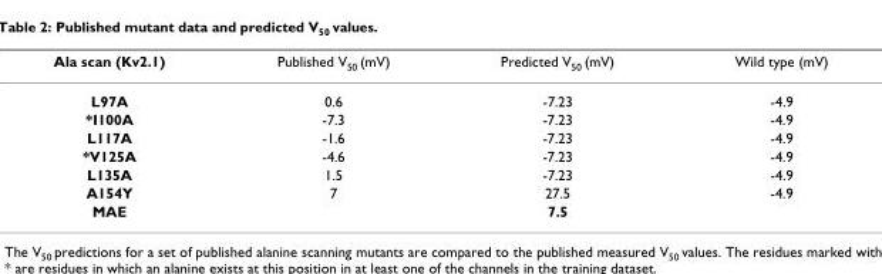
<table><thead><tr><td>Ala scan (Kv2.1)</td><td>Published V50 (mV)</td><td>Predicted V50 (mV)</td><td>Wild type (mV)</td></tr></thead><tbody><tr><td>L97A</td><td>0.6</td><td>-7.23</td><td>-4.9</td></tr><tr><td>*I100A</td><td>-7.3</td><td>-7.23</td><td>-4.9</td></tr><tr><td>L117A</td><td>-1.6</td><td>-7.23</td><td>-4.9</td></tr><tr><td>*V125A</td><td>-4.6</td><td>-7.23</td><td>-4.9</td></tr><tr><td>L135A</td><td>1.5</td><td>-7.23</td><td>-4.9</td></tr><tr><td>A154Y</td><td>7</td><td>27.5</td><td>-4.9</td></tr><tr><td>MAE</td><td colspan="3">7.5</td></tr></tbody></table>